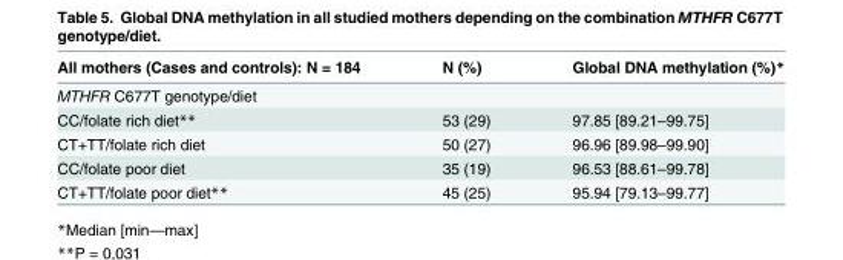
<table><thead><tr><td>All mothers (Cases and controls): N = 184</td><td>N (%)</td><td>Global DNA methylation (%)*</td></tr></thead><tbody><tr><td colspan="3">MTHFR C677T genotype/diet</td></tr><tr><td>CC/folate rich diet**</td><td>53 (29)</td><td>97.85 [89.21–99.75]</td></tr><tr><td>CT+TT/folate rich diet</td><td>50 (27)</td><td>96.96 [89.98–99.90]</td></tr><tr><td>CC/folate poor diet</td><td>35 (19)</td><td>96.53 [88.61–99.78]</td></tr><tr><td>CT+TT/folate poor diet**</td><td>45 (25)</td><td>95.94 [79.13–99.77]</td></tr></tbody></table>